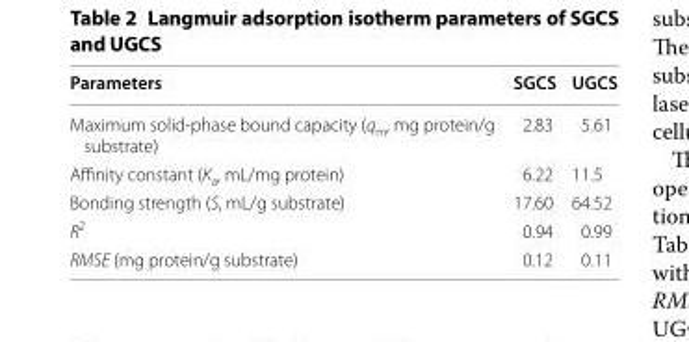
<table><thead><tr><td>Parameters</td><td>SGCS</td><td>UGCS</td></tr></thead><tbody><tr><td>Maximum solid-phase bound capacity (q<sub>m</sub>, mg protein/g substrate)</td><td>2.83</td><td>5.61</td></tr><tr><td>Affinity constant (K<sub>a</sub>, mL/mg protein)</td><td>6.22</td><td>11.5</td></tr><tr><td>Bonding strength (S, mL/g substrate)</td><td>17.60</td><td>64.52</td></tr><tr><td>R<sup>2</sup></td><td>0.94</td><td>0.99</td></tr><tr><td>RMSE (mg protein/g substrate)</td><td>0.12</td><td>0.11</td></tr></tbody></table>